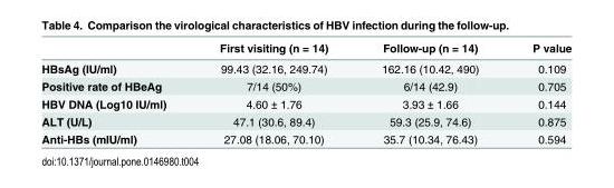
<table><thead><tr><td></td><td>First visiting (n = 14)</td><td>Follow-up (n = 14)</td><td>P value</td></tr></thead><tbody><tr><td>HBsAg (IU/ml)</td><td>99.43 (32.16, 249.74)</td><td>162.16 (10.42, 490)</td><td>0.109</td></tr><tr><td>Positive rate of HBeAg</td><td>7/14 (50%)</td><td>6/14 (42.9)</td><td>0.705</td></tr><tr><td>HBV DNA (Log10 IU/ml)</td><td>4.60 ± 1.76</td><td>3.93 ± 1.66</td><td>0.144</td></tr><tr><td>ALT (U/L)</td><td>47.1 (30.6, 89.4)</td><td>59.3 (25.9, 74.6)</td><td>0.875</td></tr><tr><td>Anti-HBs (mIU/ml)</td><td>27.08 (18.06, 70.10)</td><td>35.7 (10.34, 76.43)</td><td>0.594</td></tr></tbody></table>